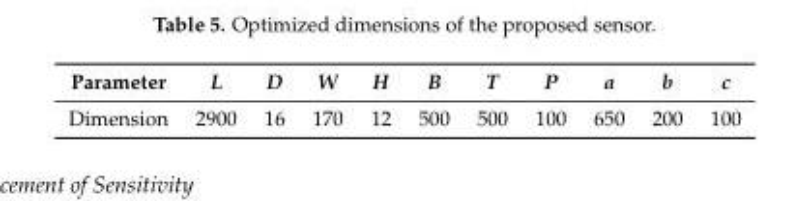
<table><thead><tr><td>Parameter</td><td>L</td><td>D</td><td>W</td><td>H</td><td>B</td><td>T</td><td>P</td><td>a</td><td>b</td><td>c</td></tr></thead><tbody><tr><td>Dimension</td><td>2900</td><td>16</td><td>170</td><td>12</td><td>500</td><td>500</td><td>100</td><td>650</td><td>200</td><td>100</td></tr></tbody></table>